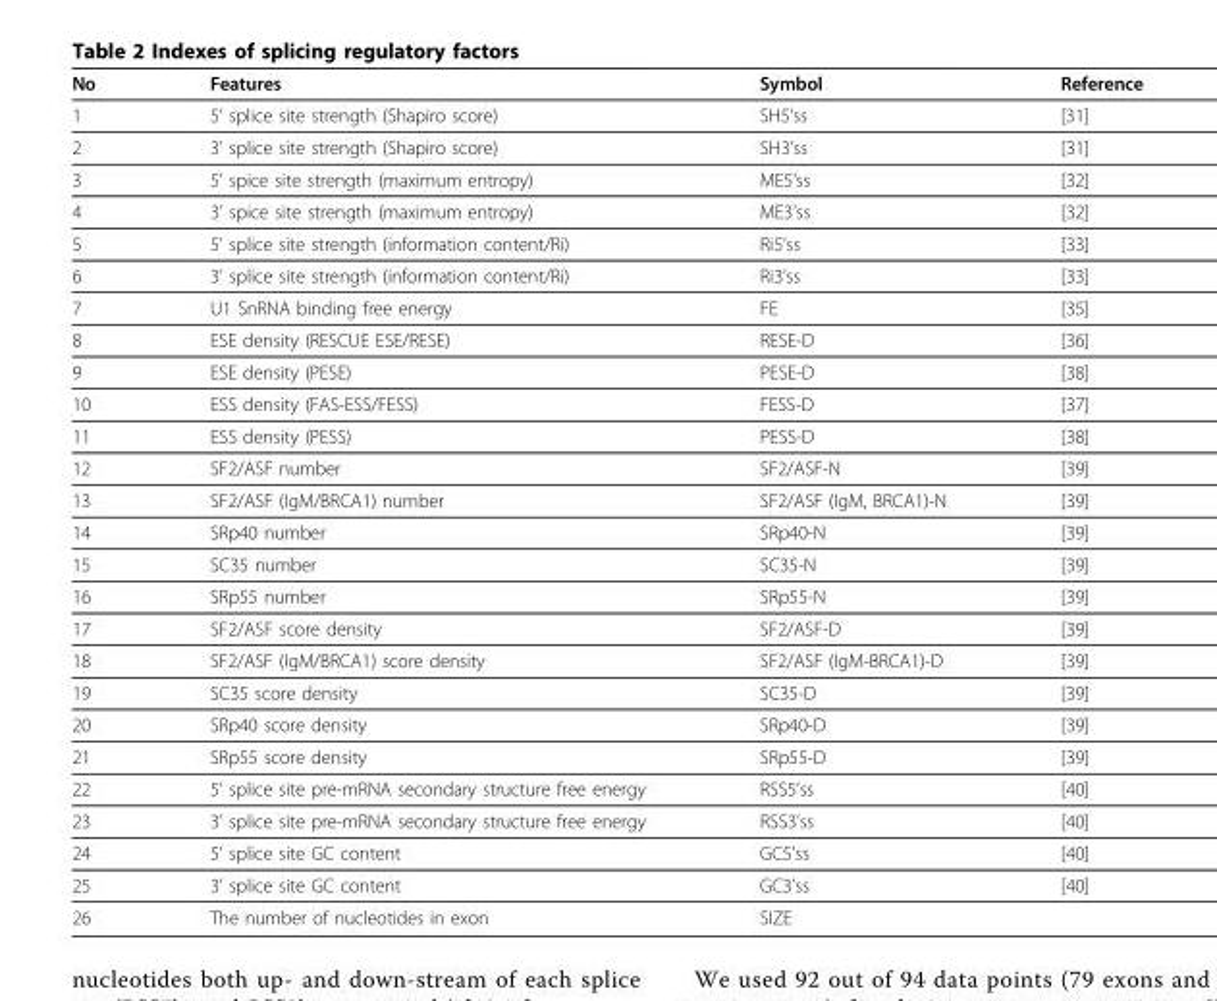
<table><thead><tr><td>No</td><td>Features</td><td>Symbol</td><td>Reference</td></tr></thead><tbody><tr><td>1</td><td>5’ splice site strength (Shapiro score)</td><td>SH5’ss</td><td>[31]</td></tr><tr><td>2</td><td>3’ splice site strength (Shapiro score)</td><td>SH3’ss</td><td>[31]</td></tr><tr><td>3</td><td>5’ spice site strength (maximum entropy)</td><td>ME5’ss</td><td>[32]</td></tr><tr><td>4</td><td>3’ spice site strength (maximum entropy)</td><td>ME3’ss</td><td>[32]</td></tr><tr><td>5</td><td>5’ splice site strength (information content/Ri)</td><td>Ri5’ss</td><td>[33]</td></tr><tr><td>6</td><td>3’ splice site strength (information content/Ri)</td><td>Ri3’ss</td><td>[33]</td></tr><tr><td>7</td><td>U1 SnRNA binding free energy</td><td>FE</td><td>[35]</td></tr><tr><td>8</td><td>ESE density (RESCUE ESE/RESE)</td><td>RESE-D</td><td>[36]</td></tr><tr><td>9</td><td>ESE density (PESE)</td><td>PESE-D</td><td>[38]</td></tr><tr><td>10</td><td>ESS density (FAS-ESS/FESS)</td><td>FESS-D</td><td>[37]</td></tr><tr><td>11</td><td>ESS density (PESS)</td><td>PESS-D</td><td>[38]</td></tr><tr><td>12</td><td>SF2/ASF number</td><td>SF2/ASF-N</td><td>[39]</td></tr><tr><td>13</td><td>SF2/ASF (IgM/BRCA1) number</td><td>SF2/ASF (IgM, BRCA1)-N</td><td>[39]</td></tr><tr><td>14</td><td>SRp40 number</td><td>SRp40-N</td><td>[39]</td></tr><tr><td>15</td><td>SC35 number</td><td>SC35-N</td><td>[39]</td></tr><tr><td>16</td><td>SRp55 number</td><td>SRp55-N</td><td>[39]</td></tr><tr><td>17</td><td>SF2/ASF score density</td><td>SF2/ASF-D</td><td>[39]</td></tr><tr><td>18</td><td>SF2/ASF (IgM/BRCA1) score density</td><td>SF2/ASF (IgM-BRCA1)-D</td><td>[39]</td></tr><tr><td>19</td><td>SC35 score density</td><td>SC35-D</td><td>[39]</td></tr><tr><td>20</td><td>SRp40 score density</td><td>SRp40-D</td><td>[39]</td></tr><tr><td>21</td><td>SRp55 score density</td><td>SRp55-D</td><td>[39]</td></tr><tr><td>22</td><td>5’ splice site pre-mRNA secondary structure free energy</td><td>RSS5’ss</td><td>[40]</td></tr><tr><td>23</td><td>3’ splice site pre-mRNA secondary structure free energy</td><td>RSS3’ss</td><td>[40]</td></tr><tr><td>24</td><td>5’ splice site GC content</td><td>GC5’ss</td><td>[40]</td></tr><tr><td>25</td><td>3’ splice site GC content</td><td>GC3’ss</td><td>[40]</td></tr><tr><td>26</td><td>The number of nucleotides in exon</td><td>SIZE</td><td></td></tr></tbody></table>